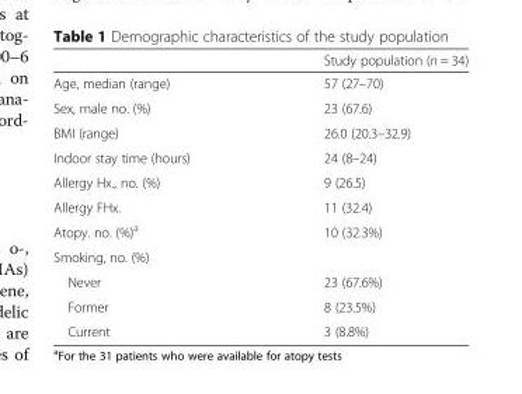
<table><thead><tr><td></td><td>Study population (n = 34)</td></tr></thead><tbody><tr><td>Age, median (range)</td><td>57 (27–70)</td></tr><tr><td>Sex, male no. (%)</td><td>23 (67.6)</td></tr><tr><td>BMI (range)</td><td>26.0 (20.3–32.9)</td></tr><tr><td>Indoor stay time (hours)</td><td>24 (8–24)</td></tr><tr><td>Allergy Hx., no. (%)</td><td>9 (26.5)</td></tr><tr><td>Allergy FHx.</td><td>11 (32.4)</td></tr><tr><td>Atopy. no. (%)<sup>a</sup></td><td>10 (32.3%)</td></tr><tr><td colspan="2">Smoking, no. (%)</td></tr><tr><td>Never</td><td>23 (67.6%)</td></tr><tr><td>Former</td><td>8 (23.5%)</td></tr><tr><td>Current</td><td>3 (8.8%)</td></tr></tbody></table>